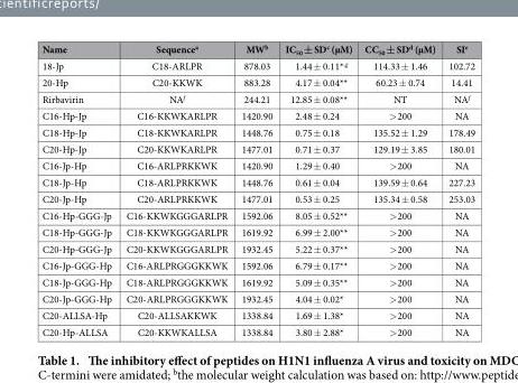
<table><thead><tr><td>Name</td><td>Sequence<sup>a</sup></td><td>MW<sup>b</sup></td><td>IC<sub>50</sub> ± SD<sup>c</sup> (μM)</td><td>CC<sub>50</sub> ± SD<sup>d</sup> (μM)</td><td>SI<sup>e</sup></td></tr></thead><tbody><tr><td>18-Jp</td><td>C18-ARLPR</td><td>878.03</td><td>1.44 ± 0.11*,g</td><td>114.33 ± 1.46</td><td>102.72</td></tr><tr><td>20-Hp</td><td>C20-KKWK</td><td>883.28</td><td>4.17 ± 0.04**</td><td>60.23 ± 0.74</td><td>14.41</td></tr><tr><td>Rirbavirin</td><td>NA<sup>f</sup></td><td>244.21</td><td>12.85 ± 0.08**</td><td>NT</td><td>NA<sup>f</sup></td></tr><tr><td>C16-Hp-Jp</td><td>C16-KKWKARLPR</td><td>1420.90</td><td>2.48 ± 0.24</td><td>&gt; 200</td><td>NA</td></tr><tr><td>C18-Hp-Jp</td><td>C18-KKWKARLPR</td><td>1448.76</td><td>0.75 ± 0.18</td><td>135.52 ± 1.29</td><td>178.49</td></tr><tr><td>C20-Hp-Jp</td><td>C20-KKWKARLPR</td><td>1477.01</td><td>0.71 ± 0.37</td><td>129.19 ± 3.85</td><td>180.01</td></tr><tr><td>C16-Jp-Hp</td><td>C16-ARLPRKKWK</td><td>1420.90</td><td>1.29 ± 0.40</td><td>&gt; 200</td><td>NA</td></tr><tr><td>C18-Jp-Hp</td><td>C18-ARLPRKKWK</td><td>1448.76</td><td>0.61 ± 0.04</td><td>139.59 ± 0.64</td><td>227.23</td></tr><tr><td>C20-Jp-Hp</td><td>C20-ARLPRKKWK</td><td>1477.01</td><td>0.53 ± 0.25</td><td>135.34 ± 0.58</td><td>253.03</td></tr><tr><td>C16-Hp-GGG-Jp</td><td>C16-KKWKGGGARLPR</td><td>1592.06</td><td>8.05 ± 0.52**</td><td>&gt; 200</td><td>NA</td></tr><tr><td>C18-Hp-GGG-Jp</td><td>C18-KKWKGGGARLPR</td><td>1619.92</td><td>6.99 ± 2.00**</td><td>&gt; 200</td><td>NA</td></tr><tr><td>C20-Hp-GGG-Jp</td><td>C20-KKWKGGGARLPR</td><td>1932.45</td><td>5.22 ± 0.37**</td><td>&gt; 200</td><td>NA</td></tr><tr><td>C16-Jp-GGG-Hp</td><td>C16-ARLPRGGGKKWK</td><td>1592.06</td><td>6.79 ± 0.17**</td><td>&gt; 200</td><td>NA</td></tr><tr><td>C18-Jp-GGG-Hp</td><td>C18-ARLPRGGGKKWK</td><td>1619.92</td><td>5.09 ± 0.35**</td><td>&gt; 200</td><td>NA</td></tr><tr><td>C20-Jp-GGG-Hp</td><td>C20-ARLPRGGGKKWK</td><td>1932.45</td><td>4.04 ± 0.02*</td><td>&gt; 200</td><td>NA</td></tr><tr><td>C20-ALLSA-Hp</td><td>C20-ALLSAKKWK</td><td>1338.84</td><td>1.69 ± 1.38*</td><td>&gt; 200</td><td>NA</td></tr><tr><td>C20-Hp-ALLSA</td><td>C20-KKWKALLSA</td><td>1338.84</td><td>3.80 ± 2.88*</td><td>&gt; 200</td><td>NA</td></tr></tbody></table>